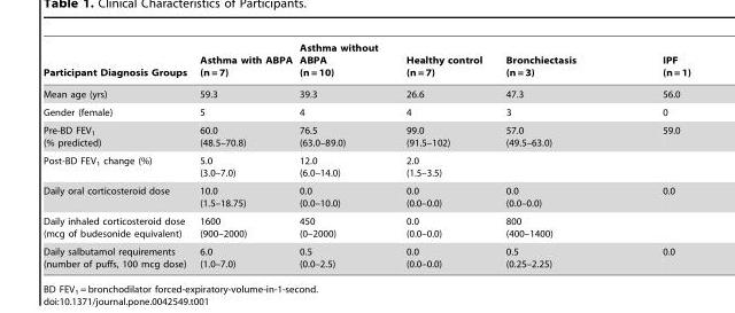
<table><thead><tr><td>Participant Diagnosis Groups</td><td>Asthma with ABPA (n = 7)</td><td>Asthma without ABPA (n = 10)</td><td>Healthy control (n = 7)</td><td>Bronchiectasis (n = 3)</td><td>IPF (n = 1)</td></tr></thead><tbody><tr><td>Mean age (yrs)</td><td>59.3</td><td>39.3</td><td>26.6</td><td>47.3</td><td>56.0</td></tr><tr><td>Gender (female)</td><td>5</td><td>4</td><td>4</td><td>3</td><td>0</td></tr><tr><td>Pre-BD FEV<sub>1</sub> (% predicted)</td><td>60.0 (48.5–70.8)</td><td>76.5 (63.0–89.0)</td><td>99.0 (91.5–102)</td><td>57.0 (49.5–63.0)</td><td>59.0</td></tr><tr><td>Post-BD FEV<sub>1</sub> change (%)</td><td>5.0 (3.0–7.0)</td><td>12.0 (6.0–14.0)</td><td>2.0 (1.5–3.5)</td><td></td><td></td></tr><tr><td>Daily oral corticosteroid dose</td><td>10.0 (1.5–18.75)</td><td>0.0 (0.0–10.0)</td><td>0.0 (0.0–0.0)</td><td>0.0 (0.0–0.0)</td><td>0.0</td></tr><tr><td>Daily inhaled corticosteroid dose (mcg of budesonide equivalent)</td><td>1600 (900–2000)</td><td>450 (0–2000)</td><td>0.0 (0.0–0.0)</td><td>800 (400–1400)</td><td></td></tr><tr><td>Daily salbutamol requirements (number of puffs, 100 mcg dose)</td><td>6.0 (1.0–7.0)</td><td>0.5 (0.0–2.5)</td><td>0.0 (0.0–0.0)</td><td>0.5 (0.25–2.25)</td><td>0.0</td></tr></tbody></table>